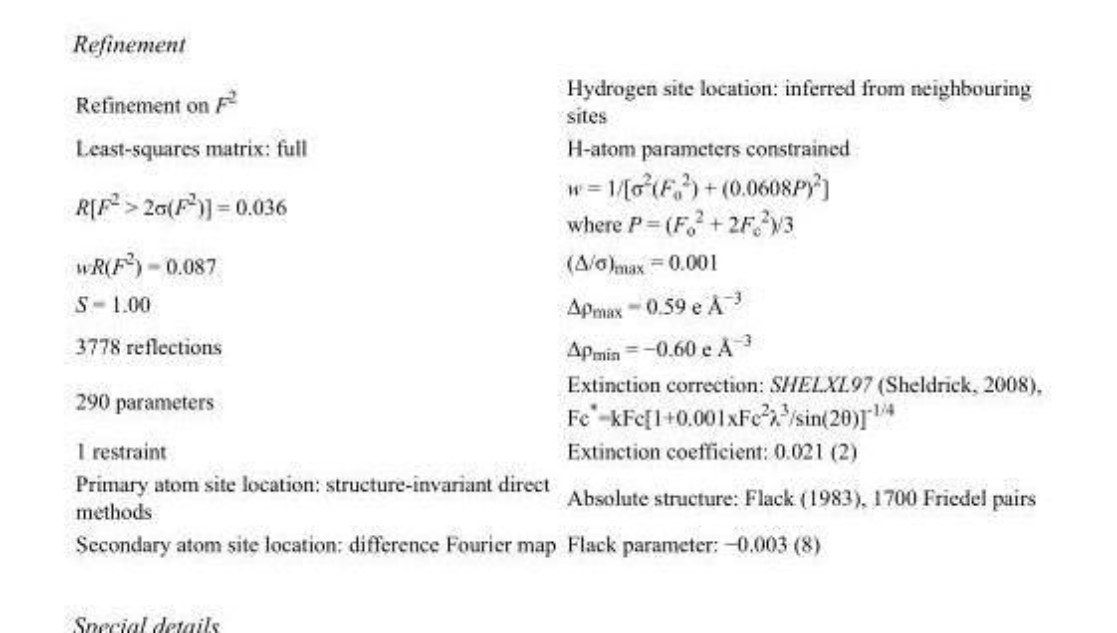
<table><tbody><tr><td>Refinement on F<sup>2</sup></td><td>Hydrogen site location: inferred from neighbouring sites</td></tr><tr><td>Least-squares matrix: full</td><td>H-atom parameters constrained</td></tr><tr><td>R[F<sup>2</sup> &gt; 2σ(F<sup>2</sup>)] = 0.036</td><td>w = 1/[σ<sup>2</sup>(F<sub>o</sub> <sup>2</sup>) + (0.0608P)<sup>2</sup>] where P = (F<sub>o</sub> <sup>2</sup> + 2F<sub>c</sub> <sup>2</sup>)/3</td></tr><tr><td>wR(F<sup>2</sup>) = 0.087</td><td>(Δ/σ)<sub>max</sub> = 0.001</td></tr><tr><td>S = 1.00</td><td>Δρ<sub>max</sub> = 0.59 e Å<sup>−3</sup></td></tr><tr><td>3778 reflections</td><td>Δρ<sub>min</sub> = −0.60 e Å<sup>−3</sup></td></tr><tr><td>290 parameters</td><td>Extinction correction: SHELXL97 (Sheldrick, 2008), Fc*=kFc[1+0.001xFc<sup>2</sup>λ<sup>3</sup>/sin(2θ)]<sup>-1/4</sup></td></tr><tr><td>1 restraint</td><td>Extinction coefficient: 0.021 (2)</td></tr><tr><td>Primary atom site location: structure-invariant direct methods</td><td>Absolute structure: Flack (1983), 1700 Friedel pairs</td></tr><tr><td>Secondary atom site location: difference Fourier map</td><td>Flack parameter: −0.003 (8)</td></tr></tbody></table>